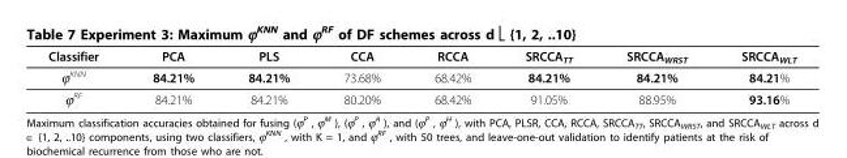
<table><thead><tr><td>Classifier</td><td>PCA</td><td>PLS</td><td>CCA</td><td>RCCA</td><td>SRCCA<sub>TT</sub></td><td>SRCCA<sub>WRST</sub></td><td>SRCCA<sub>WLT</sub></td></tr></thead><tbody><tr><td>ϕ<sup>KNN</sup></td><td>84.21%</td><td>84.21%</td><td>73.68%</td><td>68.42%</td><td>84.21%</td><td>84.21%</td><td>84.21%</td></tr><tr><td>ϕ<sup>RF</sup></td><td>84.21%</td><td>84.21%</td><td>80.20%</td><td>68.42%</td><td>91.05%</td><td>88.95%</td><td>93.16%</td></tr></tbody></table>